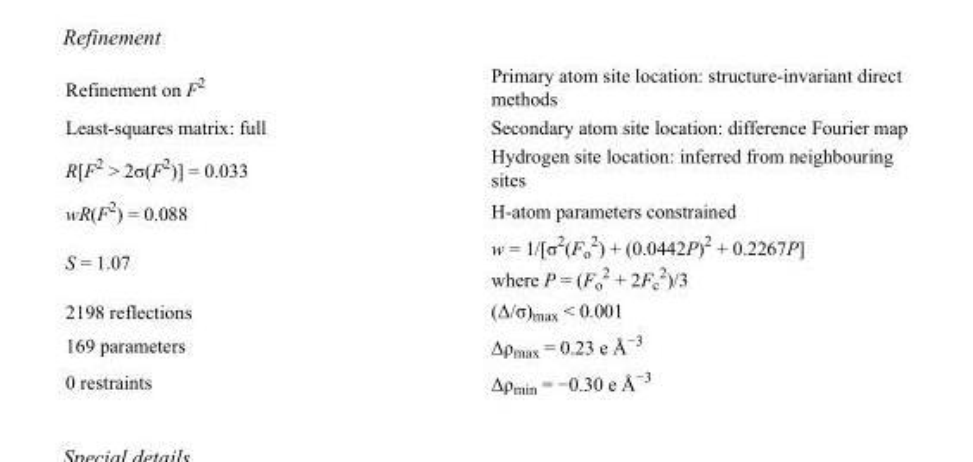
<table><tbody><tr><td>Refinement on F<sup>2</sup></td><td>Primary atom site location: structure-invariant direct methods</td></tr><tr><td>Least-squares matrix: full</td><td>Secondary atom site location: difference Fourier map</td></tr><tr><td>R[F<sup>2</sup> &gt; 2σ(F<sup>2</sup>)] = 0.033</td><td>Hydrogen site location: inferred from neighbouring sites</td></tr><tr><td>wR(F<sup>2</sup>) = 0.088</td><td>H-atom parameters constrained</td></tr><tr><td>S = 1.07</td><td>w = 1/[σ<sup>2</sup>(F<sub>o</sub> <sup>2</sup>) + (0.0442P)<sup>2</sup> + 0.2267P] where P = (F<sub>o</sub> <sup>2</sup> + 2F<sub>c</sub> <sup>2</sup>)/3</td></tr><tr><td>2198 reflections</td><td>(Δ/σ)<sub>max</sub> &lt; 0.001</td></tr><tr><td>169 parameters</td><td>Δρ<sub>max</sub> = 0.23 e Å<sup>−3</sup></td></tr><tr><td>0 restraints</td><td>Δρ<sub>min</sub> = −0.30 e Å<sup>−3</sup></td></tr></tbody></table>